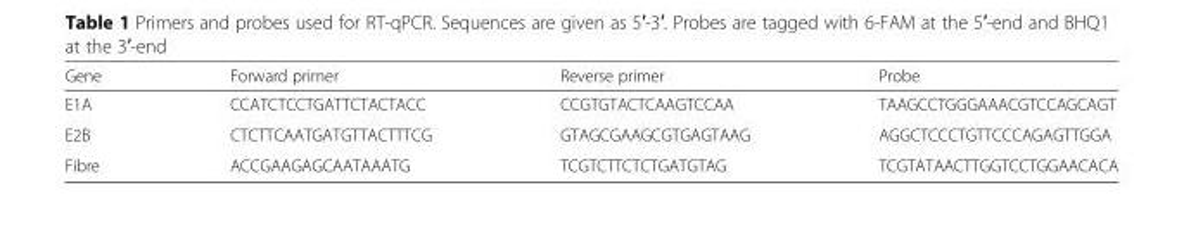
<table><thead><tr><td>Gene</td><td>Forward primer</td><td>Reverse primer</td><td>Probe</td></tr></thead><tbody><tr><td>E1A</td><td>CCATCTCCTGATTCTACTACC</td><td>CCGTGTACTCAAGTCCAA</td><td>TAAGCCTGGGAAACGTCCAGCAGT</td></tr><tr><td>E2B</td><td>CTCTTCAATGATGTTACTTTCG</td><td>GTAGCGAAGCGTGAGTAAG</td><td>AGGCTCCCTGTTCCCAGAGTTGGA</td></tr><tr><td>Fibre</td><td>ACCGAAGAGCAATAAATG</td><td>TCGTCTTCTCTGATGTAG</td><td>TCGTATAACTTGGTCCTGGAACACA</td></tr></tbody></table>